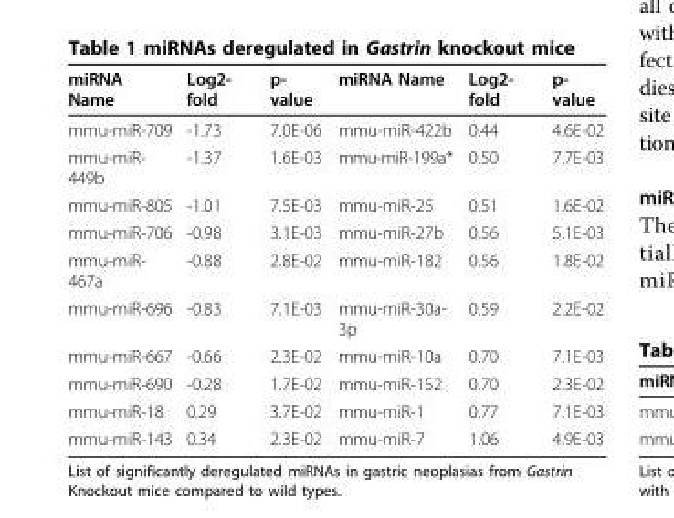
<table><thead><tr><td>miRNA Name</td><td>Log2- fold</td><td>p- value</td><td>miRNA Name</td><td>Log2- fold</td><td>p- value</td></tr></thead><tbody><tr><td>mmu-miR-709</td><td>-1.73</td><td>7.0E-06</td><td>mmu-miR-422b</td><td>0.44</td><td>4.6E-02</td></tr><tr><td>mmu-miR- 449b</td><td>-1.37</td><td>1.6E-03</td><td>mmu-miR-199a*</td><td>0.50</td><td>7.7E-03</td></tr><tr><td>mmu-miR-805</td><td>-1.01</td><td>7.5E-03</td><td>mmu-miR-25</td><td>0.51</td><td>1.6E-02</td></tr><tr><td>mmu-miR-706</td><td>-0.98</td><td>3.1E-03</td><td>mmu-miR-27b</td><td>0.56</td><td>5.1E-03</td></tr><tr><td>mmu-miR- 467a</td><td>-0.88</td><td>2.8E-02</td><td>mmu-miR-182</td><td>0.56</td><td>1.8E-02</td></tr><tr><td>mmu-miR-696</td><td>-0.83</td><td>7.1E-03</td><td>mmu-miR-30a- 3p</td><td>0.59</td><td>2.2E-02</td></tr><tr><td>mmu-miR-667</td><td>-0.66</td><td>2.3E-02</td><td>mmu-miR-10a</td><td>0.70</td><td>7.1E-03</td></tr><tr><td>mmu-miR-690</td><td>-0.28</td><td>1.7E-02</td><td>mmu-miR-152</td><td>0.70</td><td>2.3E-02</td></tr><tr><td>mmu-miR-18</td><td>0.29</td><td>3.7E-02</td><td>mmu-miR-1</td><td>0.77</td><td>7.1E-03</td></tr><tr><td>mmu-miR-143</td><td>0.34</td><td>2.3E-02</td><td>mmu-miR-7</td><td>1.06</td><td>4.9E-03</td></tr></tbody></table>